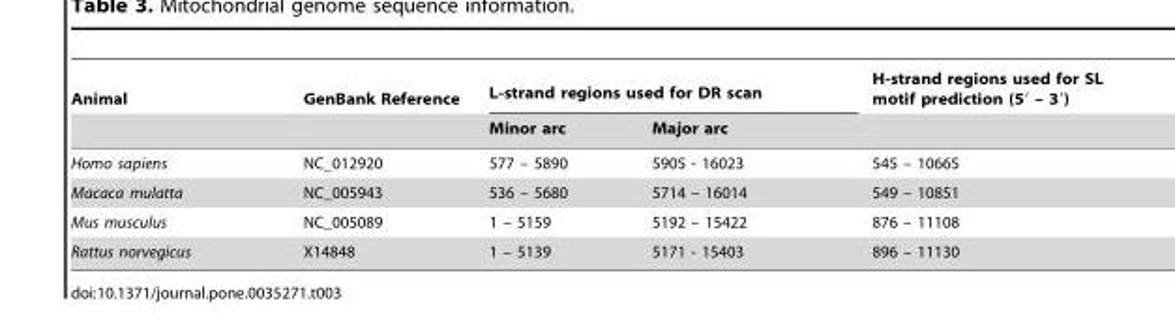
<table><thead><tr><td rowspan="2">Animal</td><td rowspan="2">GenBank Reference</td><td colspan="2">L-strand regions used for DR scan</td><td rowspan="2">H-strand regions used for SL motif prediction (5′ – 3′)</td></tr><tr><td>Minor arc</td><td>Major arc</td></tr></thead><tbody><tr><td>Homo sapiens</td><td>NC_012920</td><td>577 – 5890</td><td>5905 - 16023</td><td>545 – 10665</td></tr><tr><td>Macaca mulatta</td><td>NC_005943</td><td>536 – 5680</td><td>5714 – 16014</td><td>549 – 10851</td></tr><tr><td>Mus musculus</td><td>NC_005089</td><td>1 – 5159</td><td>5192 – 15422</td><td>876 – 11108</td></tr><tr><td>Rattus norvegicus</td><td>X14848</td><td>1 – 5139</td><td>5171 - 15403</td><td>896 – 11130</td></tr></tbody></table>